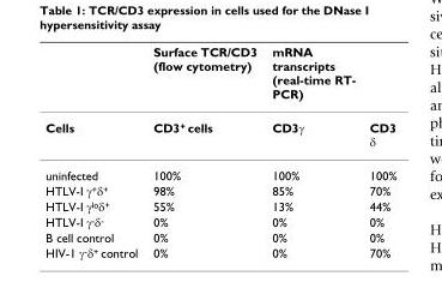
<table><thead><tr><td></td><td>Surface TCR/CD3 (flow cytometry)</td><td>mRNA transcripts (real-time RT- PCR)</td><td></td></tr></thead><tbody><tr><td>Cells</td><td>CD3<sup>+</sup> cells</td><td>CD3γ</td><td>CD3 δ</td></tr><tr><td>uninfected</td><td>100%</td><td>100%</td><td>100%</td></tr><tr><td>HTLV-I γ<sup>+</sup>δ<sup>+</sup></td><td>98%</td><td>85%</td><td>70%</td></tr><tr><td>HTLV-I γ<sup>lo</sup>δ<sup>+</sup></td><td>55%</td><td>13%</td><td>44%</td></tr><tr><td>HTLV-I γ<sup>-</sup>δ<sup>-</sup></td><td>0%</td><td>0%</td><td>0%</td></tr><tr><td>B cell control</td><td>0%</td><td>0%</td><td>0%</td></tr><tr><td>HIV-1 γ<sup>-</sup>δ<sup>+</sup> control</td><td>0%</td><td>0%</td><td>70%</td></tr></tbody></table>